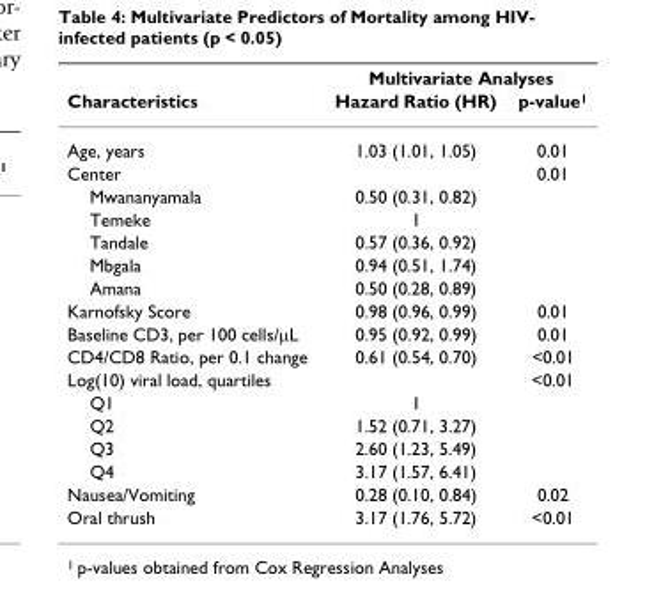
<table><thead><tr><td rowspan="2">Characteristics</td><td colspan="2">Multivariate Analyses</td></tr><tr><td>Hazard Ratio (HR)</td><td>p-value<sup>1</sup></td></tr></thead><tbody><tr><td>Age, years</td><td>1.03 (1.01, 1.05)</td><td>0.01</td></tr><tr><td>Center</td><td></td><td>0.01</td></tr><tr><td>Mwananyamala</td><td>0.50 (0.31, 0.82)</td><td></td></tr><tr><td>Temeke</td><td>1</td><td></td></tr><tr><td>Tandale</td><td>0.57 (0.36, 0.92)</td><td></td></tr><tr><td>Mbgala</td><td>0.94 (0.51, 1.74)</td><td></td></tr><tr><td>Amana</td><td>0.50 (0.28, 0.89)</td><td></td></tr><tr><td>Karnofsky Score</td><td>0.98 (0.96, 0.99)</td><td>0.01</td></tr><tr><td>Baseline CD3, per 100 cells/μL</td><td>0.95 (0.92, 0.99)</td><td>0.01</td></tr><tr><td>CD4/CD8 Ratio, per 0.1 change</td><td>0.61 (0.54, 0.70)</td><td>&lt;0.01</td></tr><tr><td>Log(10) viral load, quartiles</td><td></td><td>&lt;0.01</td></tr><tr><td>Q1</td><td>1</td><td></td></tr><tr><td>Q2</td><td>1.52 (0.71, 3.27)</td><td></td></tr><tr><td>Q3</td><td>2.60 (1.23, 5.49)</td><td></td></tr><tr><td>Q4</td><td>3.17 (1.57, 6.41)</td><td></td></tr><tr><td>Nausea/Vomiting</td><td>0.28 (0.10, 0.84)</td><td>0.02</td></tr><tr><td>Oral thrush</td><td>3.17 (1.76, 5.72)</td><td>&lt;0.01</td></tr></tbody></table>